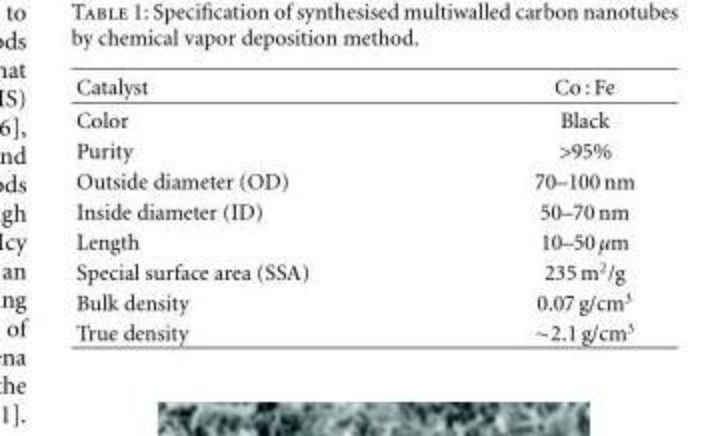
<table><thead><tr><td>Catalyst</td><td>Co : Fe</td></tr></thead><tbody><tr><td>Color</td><td>Black</td></tr><tr><td>Purity</td><td>&gt;95%</td></tr><tr><td>Outside diameter (OD)</td><td>70–100 nm</td></tr><tr><td>Inside diameter (ID)</td><td>50–70 nm</td></tr><tr><td>Length</td><td>10–50 μm</td></tr><tr><td>Special surface area (SSA)</td><td>235 m<sup>2</sup>/g</td></tr><tr><td>Bulk density</td><td>0.07 g/cm<sup>3</sup></td></tr><tr><td>True density</td><td>∼2.1 g/cm3</td></tr></tbody></table>